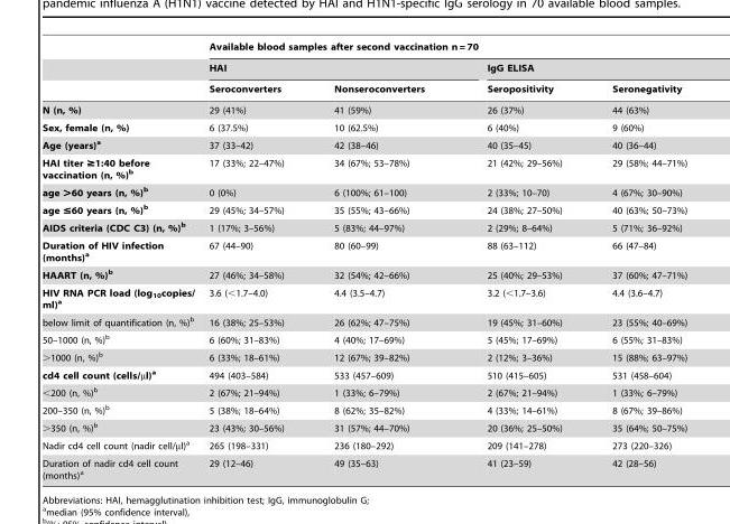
<table><thead><tr><td rowspan="3"></td><td colspan="4">Available blood samples after second vaccination n = 70</td></tr><tr><td colspan="2">HAI</td><td colspan="2">IgG ELISA</td></tr><tr><td>Seroconverters</td><td>Nonseroconverters</td><td>Seropositivity</td><td>Seronegativity</td></tr></thead><tbody><tr><td>N (n, %)</td><td>29 (41%)</td><td>41 (59%)</td><td>26 (37%)</td><td>44 (63%)</td></tr><tr><td>Sex, female (n, %)</td><td>6 (37.5%)</td><td>10 (62.5%)</td><td>6 (40%)</td><td>9 (60%)</td></tr><tr><td>Age (years)a</td><td>37 (33–42)</td><td>42 (38–46)</td><td>40 (35–45)</td><td>40 (36–44)</td></tr><tr><td>HAI titer ≥1:40 before vaccination (n, %)b</td><td>17 (33%; 22–47%)</td><td>34 (67%; 53–78%)</td><td>21 (42%; 29–56%)</td><td>29 (58%; 44–71%)</td></tr><tr><td>age &gt;60 years (n, %)b</td><td>0 (0%)</td><td>6 (100%; 61–100)</td><td>2 (33%; 10–70)</td><td>4 (67%; 30–90%)</td></tr><tr><td>age ≤60 years (n, %)b</td><td>29 (45%; 34–57%)</td><td>35 (55%; 43–66%)</td><td>24 (38%; 27–50%)</td><td>40 (63%; 50–73%)</td></tr><tr><td>AIDS criteria (CDC C3) (n, %)b</td><td>1 (17%; 3–56%)</td><td>5 (83%; 44–97%)</td><td>2 (29%; 8–64%)</td><td>5 (71%; 36–92%)</td></tr><tr><td>Duration of HIV infection (months)a</td><td>67 (44–90)</td><td>80 (60–99)</td><td>88 (63–112)</td><td>66 (47–84)</td></tr><tr><td>HAART (n, %)b</td><td>27 (46%; 34–58%)</td><td>32 (54%; 42–66%)</td><td>25 (40%; 29–53%)</td><td>37 (60%; 47–71%)</td></tr><tr><td>HIV RNA PCR load (log<sub>10</sub>copies/ ml)a</td><td>3.6 (&lt;1.7–4.0)</td><td>4.4 (3.5–4.7)</td><td>3.2 (&lt;1.7–3.6)</td><td>4.4 (3.6–4.7)</td></tr><tr><td>below limit of quantification (n, %)<sup>b</sup></td><td>16 (38%; 25–53%)</td><td>26 (62%; 47–75%)</td><td>19 (45%; 31–60%)</td><td>23 (55%; 40–69%)</td></tr><tr><td>50–1000 (n, %)<sup>b</sup></td><td>6 (60%; 31–83%)</td><td>4 (40%; 17–69%)</td><td>5 (45%; 17–69%)</td><td>6 (55%; 31–83%)</td></tr><tr><td>&gt;1000 (n, %)<sup>b</sup></td><td>6 (33%; 18–61%)</td><td>12 (67%; 39–82%)</td><td>2 (12%; 3–36%)</td><td>15 (88%; 63–97%)</td></tr><tr><td>cd4 cell count (cells/µl)a</td><td>494 (403–584)</td><td>533 (457–609)</td><td>510 (415–605)</td><td>531 (458–604)</td></tr><tr><td>&lt;200 (n, %)<sup>b</sup></td><td>2 (67%; 21–94%)</td><td>1 (33%; 6–79%)</td><td>2 (67%; 21–94%)</td><td>1 (33%; 6–79%)</td></tr><tr><td>200–350 (n, %)<sup>b</sup></td><td>5 (38%; 18–64%)</td><td>8 (62%; 35–82%)</td><td>4 (33%; 14–61%)</td><td>8 (67%; 39–86%)</td></tr><tr><td>&gt;350 (n, %)<sup>b</sup></td><td>23 (43%; 30–56%)</td><td>31 (57%; 44–70%)</td><td>20 (36%; 25–50%)</td><td>35 (64%; 50–75%)</td></tr><tr><td>Nadir cd4 cell count (nadir cell/µl)<sup>a</sup></td><td>265 (198–331)</td><td>236 (180–292)</td><td>209 (141–278)</td><td>273 (220–326)</td></tr><tr><td>Duration of nadir cd4 cell count (months)<sup>a</sup></td><td>29 (12–46)</td><td>49 (35–63)</td><td>41 (23–59)</td><td>42 (28–56)</td></tr></tbody></table>